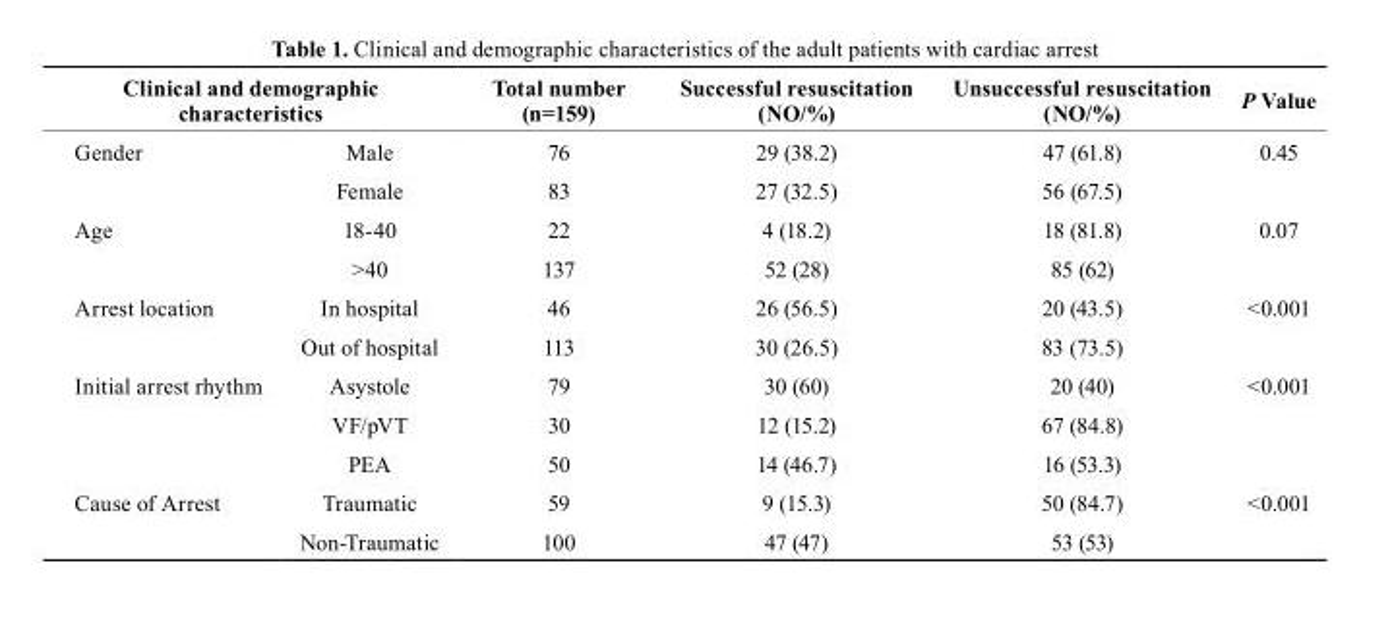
<table><thead><tr><td colspan="2">Clinical and demographic characteristics</td><td rowspan="2">Total number (n=159) 76</td><td rowspan="2">Successful resuscitation (NO/%) 29 (38.2)</td><td rowspan="2">Unsuccessful resuscitation (NO/%) 47 (61.8)</td><td rowspan="2">P Value 0.45</td></tr><tr><td>Gender</td><td>Male</td></tr></thead><tbody><tr><td></td><td>Female</td><td>83</td><td>27 (32.5)</td><td>56 (67.5)</td><td></td></tr><tr><td rowspan="2">Age</td><td>18-40</td><td>22</td><td>4 (18.2)</td><td>18 (81.8)</td><td>0.07</td></tr><tr><td>&gt;40</td><td>137</td><td>52 (28)</td><td>85 (62)</td><td></td></tr><tr><td rowspan="2">Arrest location</td><td>In hospital</td><td>46</td><td>26 (56.5)</td><td>20 (43.5)</td><td>&lt;0.001</td></tr><tr><td>Out of hospital</td><td>113</td><td>30 (26.5)</td><td>83 (73.5)</td><td></td></tr><tr><td rowspan="3">Initial arrest rhythm</td><td>Asystole</td><td>79</td><td>30 (60)</td><td>20 (40)</td><td>&lt;0.001</td></tr><tr><td>VF/pVT</td><td>30</td><td>12 (15.2)</td><td>67 (84.8)</td><td></td></tr><tr><td>PEA</td><td>50</td><td>14 (46.7)</td><td>16 (53.3)</td><td></td></tr><tr><td rowspan="2">Cause of Arrest</td><td>Traumatic</td><td>59</td><td>9 (15.3)</td><td>50 (84.7)</td><td>&lt;0.001</td></tr><tr><td>Non-Traumatic</td><td>100</td><td>47 (47)</td><td>53 (53)</td><td></td></tr></tbody></table>